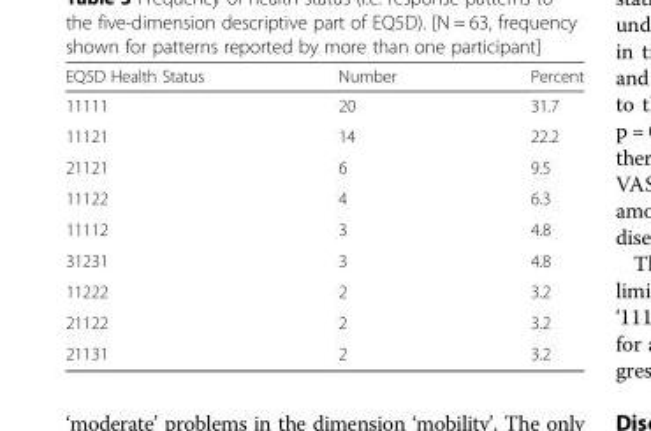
<table><thead><tr><td>EQ5D Health Status</td><td>Number</td><td>Percent</td></tr></thead><tbody><tr><td>11111</td><td>20</td><td>31.7</td></tr><tr><td>11121</td><td>14</td><td>22.2</td></tr><tr><td>21121</td><td>6</td><td>9.5</td></tr><tr><td>11122</td><td>4</td><td>6.3</td></tr><tr><td>11112</td><td>3</td><td>4.8</td></tr><tr><td>31231</td><td>3</td><td>4.8</td></tr><tr><td>11222</td><td>2</td><td>3.2</td></tr><tr><td>21122</td><td>2</td><td>3.2</td></tr><tr><td>21131</td><td>2</td><td>3.2</td></tr></tbody></table>